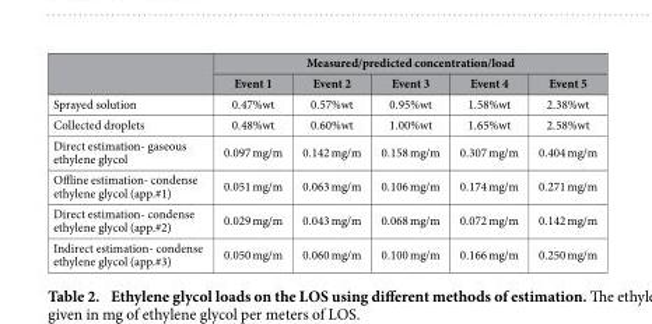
<table><thead><tr><td rowspan="2"></td><td colspan="5">Measured/predicted concentration/load</td></tr><tr><td>Event 1</td><td>Event 2</td><td>Event 3</td><td>Event 4</td><td>Event 5</td></tr></thead><tbody><tr><td>Sprayed solution</td><td>0.47%wt</td><td>0.57%wt</td><td>0.95%wt</td><td>1.58%wt</td><td>2.38%wt</td></tr><tr><td>Collected droplets</td><td>0.48%wt</td><td>0.60%wt</td><td>1.00%wt</td><td>1.65%wt</td><td>2.58%wt</td></tr><tr><td>Direct estimation- gaseous ethylene glycol</td><td>0.097 mg/m</td><td>0.142 mg/m</td><td>0.158 mg/m</td><td>0.307 mg/m</td><td>0.404 mg/m</td></tr><tr><td>Offline estimation- condense ethylene glycol (app.#1)</td><td>0.051 mg/m</td><td>0.063 mg/m</td><td>0.106 mg/m</td><td>0.174 mg/m</td><td>0.271 mg/m</td></tr><tr><td>Direct estimation- condense ethylene glycol (app.#2)</td><td>0.029 mg/m</td><td>0.043 mg/m</td><td>0.068 mg/m</td><td>0.072 mg/m</td><td>0.142 mg/m</td></tr><tr><td>Indirect estimation- condense ethylene glycol (app.#3)</td><td>0.050 mg/m</td><td>0.060 mg/m</td><td>0.100 mg/m</td><td>0.166 mg/m</td><td>0.250 mg/m</td></tr></tbody></table>